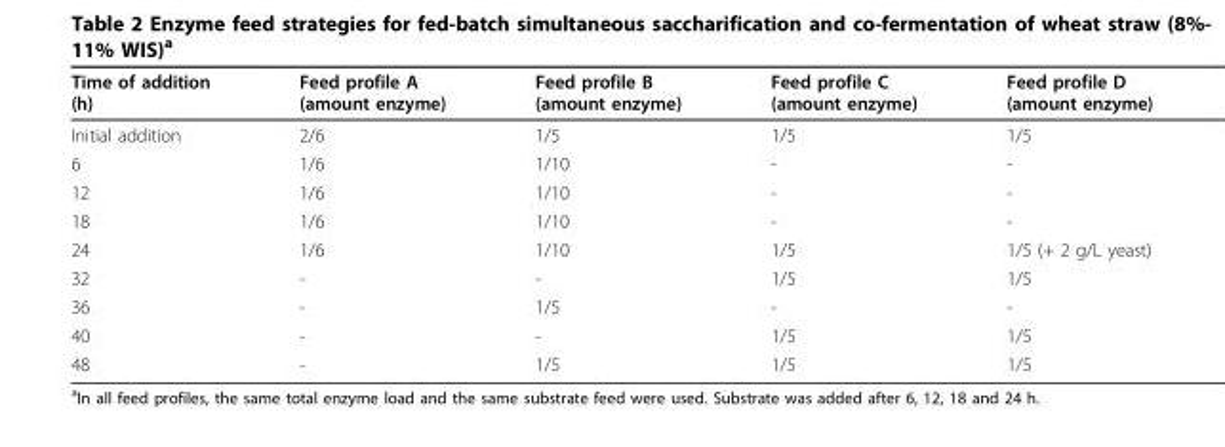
<table><thead><tr><td>Time of addition (h)</td><td>Feed profile A (amount enzyme)</td><td>Feed profile B (amount enzyme)</td><td>Feed profile C (amount enzyme)</td><td>Feed profile D (amount enzyme)</td></tr></thead><tbody><tr><td>Initial addition</td><td>2/6</td><td>1/5</td><td>1/5</td><td>1/5</td></tr><tr><td>6</td><td>1/6</td><td>1/10</td><td>-</td><td>-</td></tr><tr><td>12</td><td>1/6</td><td>1/10</td><td>-</td><td>-</td></tr><tr><td>18</td><td>1/6</td><td>1/10</td><td>-</td><td>-</td></tr><tr><td>24</td><td>1/6</td><td>1/10</td><td>1/5</td><td>1/5 (+ 2 g/L yeast)</td></tr><tr><td>32</td><td>-</td><td>-</td><td>1/5</td><td>1/5</td></tr><tr><td>36</td><td>-</td><td>1/5</td><td>-</td><td>-</td></tr><tr><td>40</td><td>-</td><td>-</td><td>1/5</td><td>1/5</td></tr><tr><td>48</td><td>-</td><td>1/5</td><td>1/5</td><td>1/5</td></tr></tbody></table>